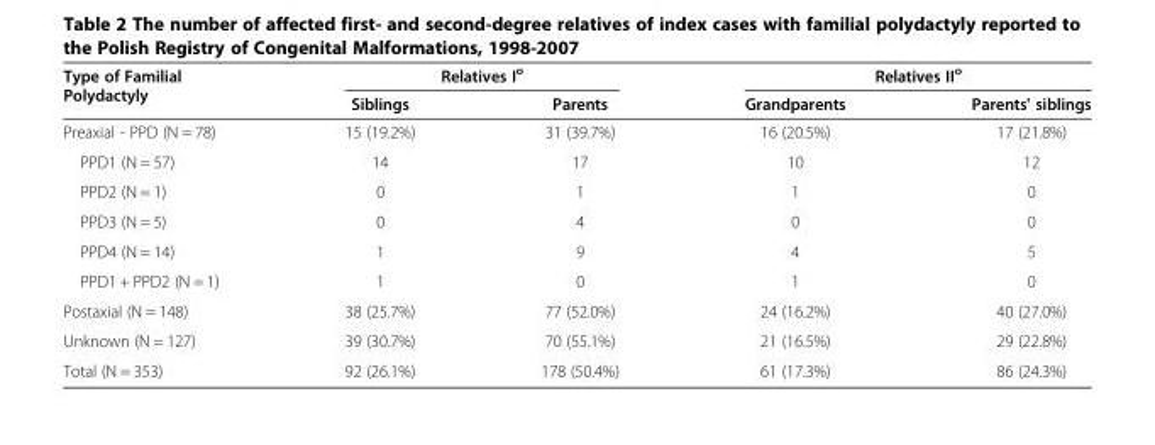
<table><thead><tr><td rowspan="2">Type of Familial Polydactyly</td><td colspan="2">Relatives I<sup>o</sup></td><td colspan="2">Relatives II<sup>o</sup></td></tr><tr><td>Siblings</td><td>Parents</td><td>Grandparents</td><td>Parents&#x27; siblings</td></tr></thead><tbody><tr><td>Preaxial - PPD (N = 78)</td><td>15 (19.2%)</td><td>31 (39.7%)</td><td>16 (20.5%)</td><td>17 (21.8%)</td></tr><tr><td>PPD1 (N = 57)</td><td>14</td><td>17</td><td>10</td><td>12</td></tr><tr><td>PPD2 (N = 1)</td><td>0</td><td>1</td><td>1</td><td>0</td></tr><tr><td>PPD3 (N = 5)</td><td>0</td><td>4</td><td>0</td><td>0</td></tr><tr><td>PPD4 (N = 14)</td><td>1</td><td>9</td><td>4</td><td>5</td></tr><tr><td>PPD1 + PPD2 (N = 1)</td><td>1</td><td>0</td><td>1</td><td>0</td></tr><tr><td>Postaxial (N = 148)</td><td>38 (25.7%)</td><td>77 (52.0%)</td><td>24 (16.2%)</td><td>40 (27.0%)</td></tr><tr><td>Unknown (N = 127)</td><td>39 (30.7%)</td><td>70 (55.1%)</td><td>21 (16.5%)</td><td>29 (22.8%)</td></tr><tr><td>Total (N = 353)</td><td>92 (26.1%)</td><td>178 (50.4%)</td><td>61 (17.3%)</td><td>86 (24.3%)</td></tr></tbody></table>